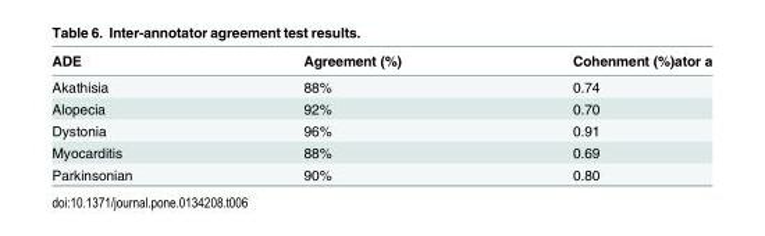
<table><thead><tr><td>ADE</td><td>Agreement (%)</td><td>Cohenment (%)ator a</td></tr></thead><tbody><tr><td>Akathisia</td><td>88%</td><td>0.74</td></tr><tr><td>Alopecia</td><td>92%</td><td>0.70</td></tr><tr><td>Dystonia</td><td>96%</td><td>0.91</td></tr><tr><td>Myocarditis</td><td>88%</td><td>0.69</td></tr><tr><td>Parkinsonian</td><td>90%</td><td>0.80</td></tr></tbody></table>